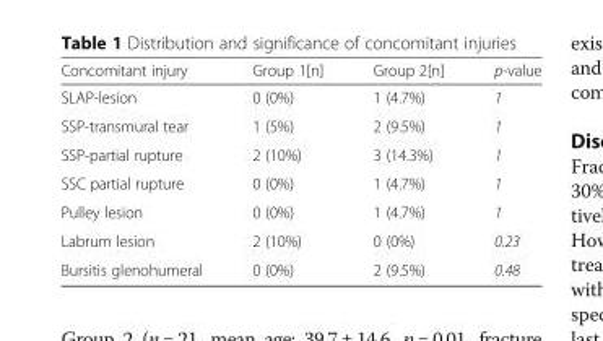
<table><thead><tr><td>Concomitant injury</td><td>Group 1[n]</td><td>Group 2[n]</td><td>p-value</td></tr></thead><tbody><tr><td>SLAP-lesion</td><td>0 (0%)</td><td>1 (4.7%)</td><td>1</td></tr><tr><td>SSP-transmural tear</td><td>1 (5%)</td><td>2 (9.5%)</td><td>1</td></tr><tr><td>SSP-partial rupture</td><td>2 (10%)</td><td>3 (14.3%)</td><td>1</td></tr><tr><td>SSC partial rupture</td><td>0 (0%)</td><td>1 (4.7%)</td><td>1</td></tr><tr><td>Pulley lesion</td><td>0 (0%)</td><td>1 (4.7%)</td><td>1</td></tr><tr><td>Labrum lesion</td><td>2 (10%)</td><td>0 (0%)</td><td>0.23</td></tr><tr><td>Bursitis glenohumeral</td><td>0 (0%)</td><td>2 (9.5%)</td><td>0.48</td></tr></tbody></table>